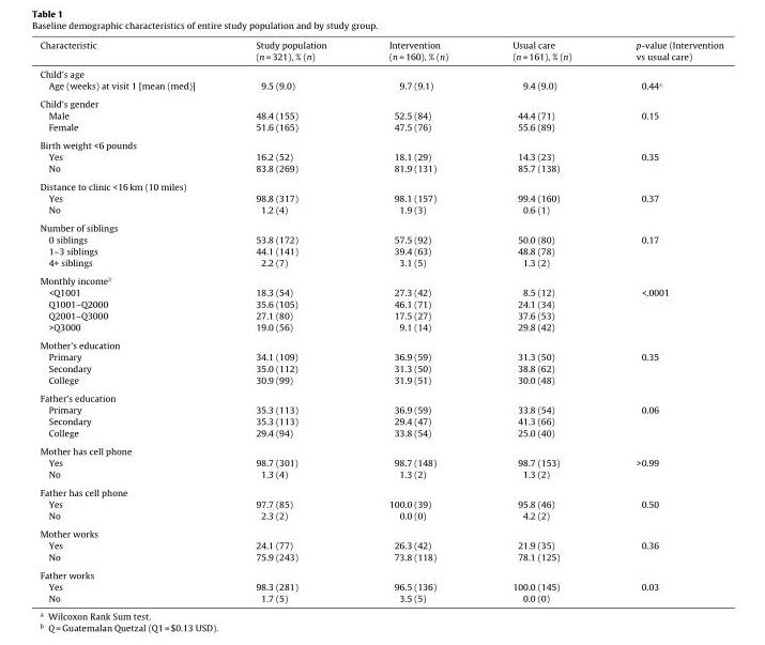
<table><thead><tr><td>Characteristic</td><td>Study population (n = 321), % (n)</td><td>Intervention (n = 160), % (n)</td><td>Usual care (n = 161), % (n)</td><td>p-value (Intervention vs usual care)</td></tr></thead><tbody><tr><td colspan="5">Child’s age</td></tr><tr><td>Age (weeks) at visit 1 [mean (med)]</td><td>9.5 (9.0)</td><td>9.7 (9.1)</td><td>9.4 (9.0)</td><td>0.44<sup>a</sup></td></tr><tr><td colspan="5">Child’s gender</td></tr><tr><td>Male</td><td>48.4 (155)</td><td>52.5 (84)</td><td>44.4 (71)</td><td>0.15</td></tr><tr><td>Female</td><td>51.6 (165)</td><td>47.5 (76)</td><td>55.6 (89)</td><td></td></tr><tr><td colspan="5">Birth weight &lt;6 pounds</td></tr><tr><td>Yes</td><td>16.2 (52)</td><td>18.1 (29)</td><td>14.3 (23)</td><td>0.35</td></tr><tr><td>No</td><td>83.8 (269)</td><td>81.9 (131)</td><td>85.7 (138)</td><td></td></tr><tr><td colspan="5">Distance to clinic &lt;16 km (10 miles)</td></tr><tr><td>Yes</td><td>98.8 (317)</td><td>98.1 (157)</td><td>99.4 (160)</td><td>0.37</td></tr><tr><td>No</td><td>1.2 (4)</td><td>1.9 (3)</td><td>0.6 (1)</td><td></td></tr><tr><td colspan="5">Number of siblings</td></tr><tr><td>0 siblings</td><td>53.8 (172)</td><td>57.5 (92)</td><td>50.0 (80)</td><td>0.17</td></tr><tr><td>1–3 siblings</td><td>44.1 (141)</td><td>39.4 (63)</td><td>48.8 (78)</td><td></td></tr><tr><td>4+ siblings</td><td>2.2 (7)</td><td>3.1 (5)</td><td>1.3 (2)</td><td></td></tr><tr><td colspan="5">Monthly income<sup>b</sup></td></tr><tr><td>&lt;Q1001</td><td>18.3 (54)</td><td>27.3 (42)</td><td>8.5 (12)</td><td>&lt;.0001</td></tr><tr><td>Q1001–Q2000</td><td>35.6 (105)</td><td>46.1 (71)</td><td>24.1 (34)</td><td></td></tr><tr><td>Q2001–Q3000</td><td>27.1 (80)</td><td>17.5 (27)</td><td>37.6 (53)</td><td></td></tr><tr><td>&gt;Q3000</td><td>19.0 (56)</td><td>9.1 (14)</td><td>29.8 (42)</td><td></td></tr><tr><td colspan="5">Mother’s education</td></tr><tr><td>Primary</td><td>34.1 (109)</td><td>36.9 (59)</td><td>31.3 (50)</td><td>0.35</td></tr><tr><td>Secondary</td><td>35.0 (112)</td><td>31.3 (50)</td><td>38.8 (62)</td><td></td></tr><tr><td>College</td><td>30.9 (99)</td><td>31.9 (51)</td><td>30.0 (48)</td><td></td></tr><tr><td colspan="5">Father’s education</td></tr><tr><td>Primary</td><td>35.3 (113)</td><td>36.9 (59)</td><td>33.8 (54)</td><td>0.06</td></tr><tr><td>Secondary</td><td>35.3 (113)</td><td>29.4 (47)</td><td>41.3 (66)</td><td></td></tr><tr><td>College</td><td>29.4 (94)</td><td>33.8 (54)</td><td>25.0 (40)</td><td></td></tr><tr><td colspan="5">Mother has cell phone</td></tr><tr><td>Yes</td><td>98.7 (301)</td><td>98.7 (148)</td><td>98.7 (153)</td><td>&gt;0.99</td></tr><tr><td>No</td><td>1.3 (4)</td><td>1.3 (2)</td><td>1.3 (2)</td><td></td></tr><tr><td colspan="5">Father has cell phone</td></tr><tr><td>Yes</td><td>97.7 (85)</td><td>100.0 (39)</td><td>95.8 (46)</td><td>0.50</td></tr><tr><td>No</td><td>2.3 (2)</td><td>0.0 (0)</td><td>4.2 (2)</td><td></td></tr><tr><td colspan="5">Mother works</td></tr><tr><td>Yes</td><td>24.1 (77)</td><td>26.3 (42)</td><td>21.9 (35)</td><td>0.36</td></tr><tr><td>No</td><td>75.9 (243)</td><td>73.8 (118)</td><td>78.1 (125)</td><td></td></tr><tr><td colspan="5">Father works</td></tr><tr><td>Yes</td><td>98.3 (281)</td><td>96.5 (136)</td><td>100.0 (145)</td><td>0.03</td></tr><tr><td>No</td><td>1.7 (5)</td><td>3.5 (5)</td><td>0.0 (0)</td><td></td></tr></tbody></table>